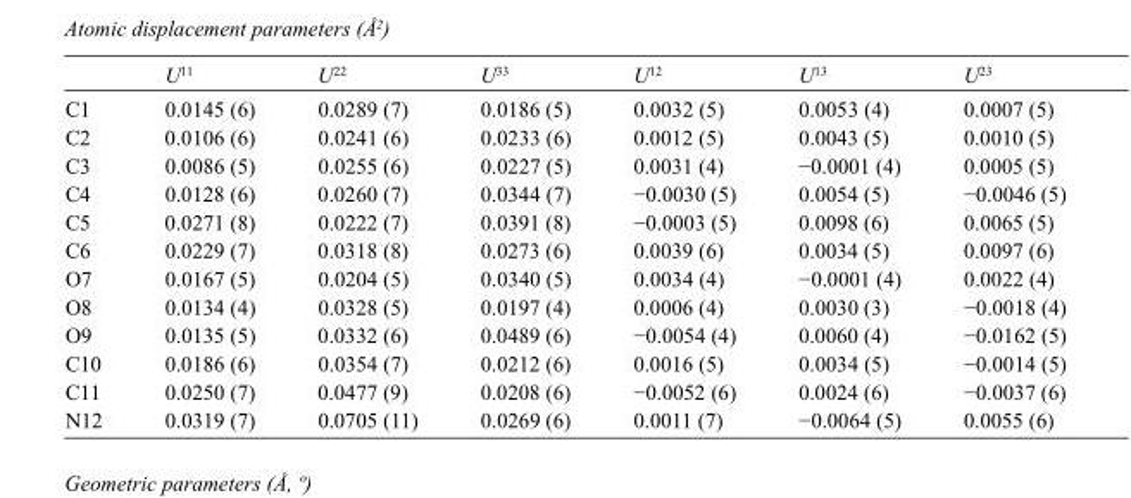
<table><thead><tr><td></td><td>U<sup>11</sup></td><td>U<sup>22</sup></td><td>U<sup>33</sup></td><td>U<sup>12</sup></td><td>U<sup>13</sup></td><td>U<sup>23</sup></td></tr></thead><tbody><tr><td>C1</td><td>0.0145 (6)</td><td>0.0289 (7)</td><td>0.0186 (5)</td><td>0.0032 (5)</td><td>0.0053 (4)</td><td>0.0007 (5)</td></tr><tr><td>C2</td><td>0.0106 (6)</td><td>0.0241 (6)</td><td>0.0233 (6)</td><td>0.0012 (5)</td><td>0.0043 (5)</td><td>0.0010 (5)</td></tr><tr><td>C3</td><td>0.0086 (5)</td><td>0.0255 (6)</td><td>0.0227 (5)</td><td>0.0031 (4)</td><td>−0.0001 (4)</td><td>0.0005 (5)</td></tr><tr><td>C4</td><td>0.0128 (6)</td><td>0.0260 (7)</td><td>0.0344 (7)</td><td>−0.0030 (5)</td><td>0.0054 (5)</td><td>−0.0046 (5)</td></tr><tr><td>C5</td><td>0.0271 (8)</td><td>0.0222 (7)</td><td>0.0391 (8)</td><td>−0.0003 (5)</td><td>0.0098 (6)</td><td>0.0065 (5)</td></tr><tr><td>C6</td><td>0.0229 (7)</td><td>0.0318 (8)</td><td>0.0273 (6)</td><td>0.0039 (6)</td><td>0.0034 (5)</td><td>0.0097 (6)</td></tr><tr><td>O7</td><td>0.0167 (5)</td><td>0.0204 (5)</td><td>0.0340 (5)</td><td>0.0034 (4)</td><td>−0.0001 (4)</td><td>0.0022 (4)</td></tr><tr><td>O8</td><td>0.0134 (4)</td><td>0.0328 (5)</td><td>0.0197 (4)</td><td>0.0006 (4)</td><td>0.0030 (3)</td><td>−0.0018 (4)</td></tr><tr><td>O9</td><td>0.0135 (5)</td><td>0.0332 (6)</td><td>0.0489 (6)</td><td>−0.0054 (4)</td><td>0.0060 (4)</td><td>−0.0162 (5)</td></tr><tr><td>C10</td><td>0.0186 (6)</td><td>0.0354 (7)</td><td>0.0212 (6)</td><td>0.0016 (5)</td><td>0.0034 (5)</td><td>−0.0014 (5)</td></tr><tr><td>C11</td><td>0.0250 (7)</td><td>0.0477 (9)</td><td>0.0208 (6)</td><td>−0.0052 (6)</td><td>0.0024 (6)</td><td>−0.0037 (6)</td></tr><tr><td>N12</td><td>0.0319 (7)</td><td>0.0705 (11)</td><td>0.0269 (6)</td><td>0.0011 (7)</td><td>−0.0064 (5)</td><td>0.0055 (6)</td></tr></tbody></table>